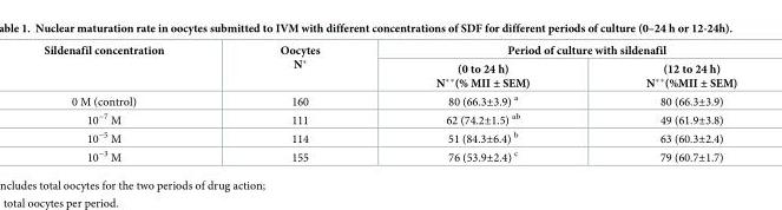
<table><thead><tr><td rowspan="2">Sildenafil concentration</td><td rowspan="2">Oocytes N*</td><td colspan="2">Period of culture with sildenafil</td></tr><tr><td>(0 to 24 h) N**(% MII ± SEM)</td><td>(12 to 24 h) N**(%MII ± SEM)</td></tr></thead><tbody><tr><td>0 M (control)</td><td>160</td><td>80 (66.3±3.9) <sup>a</sup></td><td>80 (66.3±3.9)</td></tr><tr><td>10<sup>−7</sup> M</td><td>111</td><td>62 (74.2±1.5) <sup>ab</sup></td><td>49 (61.9±3.8)</td></tr><tr><td>10<sup>−5</sup> M</td><td>114</td><td>51 (84.3±6.4) <sup>b</sup></td><td>63 (60.3±2.4)</td></tr><tr><td>10<sup>−3</sup> M</td><td>155</td><td>76 (53.9±2.4) <sup>c</sup></td><td>79 (60.7±1.7)</td></tr></tbody></table>